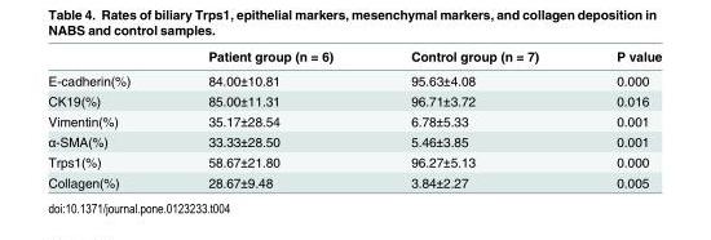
<table><thead><tr><td></td><td>Patient group (n = 6)</td><td>Control group (n = 7)</td><td>P value</td></tr></thead><tbody><tr><td>E-cadherin(%)</td><td>84.00±10.81</td><td>95.63±4.08</td><td>0.000</td></tr><tr><td>CK19(%)</td><td>85.00±11.31</td><td>96.71±3.72</td><td>0.016</td></tr><tr><td>Vimentin(%)</td><td>35.17±28.54</td><td>6.78±5.33</td><td>0.001</td></tr><tr><td>α-SMA(%)</td><td>33.33±28.50</td><td>5.46±3.85</td><td>0.001</td></tr><tr><td>Trps1(%)</td><td>58.67±21.80</td><td>96.27±5.13</td><td>0.000</td></tr><tr><td>Collagen(%)</td><td>28.67±9.48</td><td>3.84±2.27</td><td>0.005</td></tr></tbody></table>